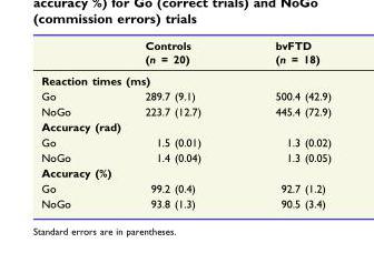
<table><thead><tr><td></td><td>Controls (n = 20)</td><td>bvFTD (n = 18)</td></tr></thead><tbody><tr><td colspan="3">Reaction times (ms)</td></tr><tr><td>Go</td><td>289.7 (9.1)</td><td>500.4 (42.9)</td></tr><tr><td>NoGo</td><td>223.7 (12.7)</td><td>445.4 (72.9)</td></tr><tr><td colspan="3">Accuracy (rad)</td></tr><tr><td>Go</td><td>1.5 (0.01)</td><td>1.3 (0.02)</td></tr><tr><td>NoGo</td><td>1.4 (0.04)</td><td>1.3 (0.05)</td></tr><tr><td colspan="3">Accuracy (%)</td></tr><tr><td>Go</td><td>99.2 (0.4)</td><td>92.7 (1.2)</td></tr><tr><td>NoGo</td><td>93.8 (1.3)</td><td>90.5 (3.4)</td></tr></tbody></table>